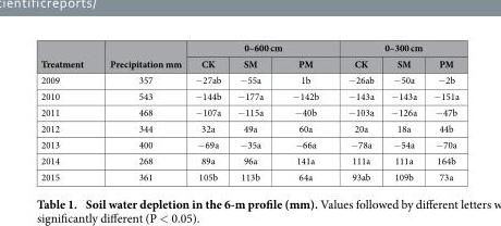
<table><thead><tr><td rowspan="2">Treatment</td><td rowspan="2">Precipitation mm</td><td colspan="3">0–600 cm</td><td colspan="3">0–300 cm</td></tr><tr><td>CK</td><td>SM</td><td>PM</td><td>CK</td><td>SM</td><td>PM</td></tr></thead><tbody><tr><td>2009</td><td>357</td><td>− 27ab</td><td>− 55a</td><td>1b</td><td>−26ab</td><td>− 50a</td><td>− 2b</td></tr><tr><td>2010</td><td>543</td><td>− 144b</td><td>− 177a</td><td>−142b</td><td>−143a</td><td>− 143a</td><td>− 151a</td></tr><tr><td>2011</td><td>468</td><td>− 107a</td><td>− 115a</td><td>−40b</td><td>−103a</td><td>− 126a</td><td>− 47b</td></tr><tr><td>2012</td><td>344</td><td>32a</td><td>49a</td><td>60a</td><td>20a</td><td>18a</td><td>44b</td></tr><tr><td>2013</td><td>400</td><td>− 69a</td><td>− 35a</td><td>−66a</td><td>−78a</td><td>− 54a</td><td>− 70a</td></tr><tr><td>2014</td><td>268</td><td>89a</td><td>96a</td><td>141a</td><td>111a</td><td>111a</td><td>164b</td></tr><tr><td>2015</td><td>361</td><td>105b</td><td>113b</td><td>64a</td><td>93ab</td><td>109b</td><td>73a</td></tr></tbody></table>